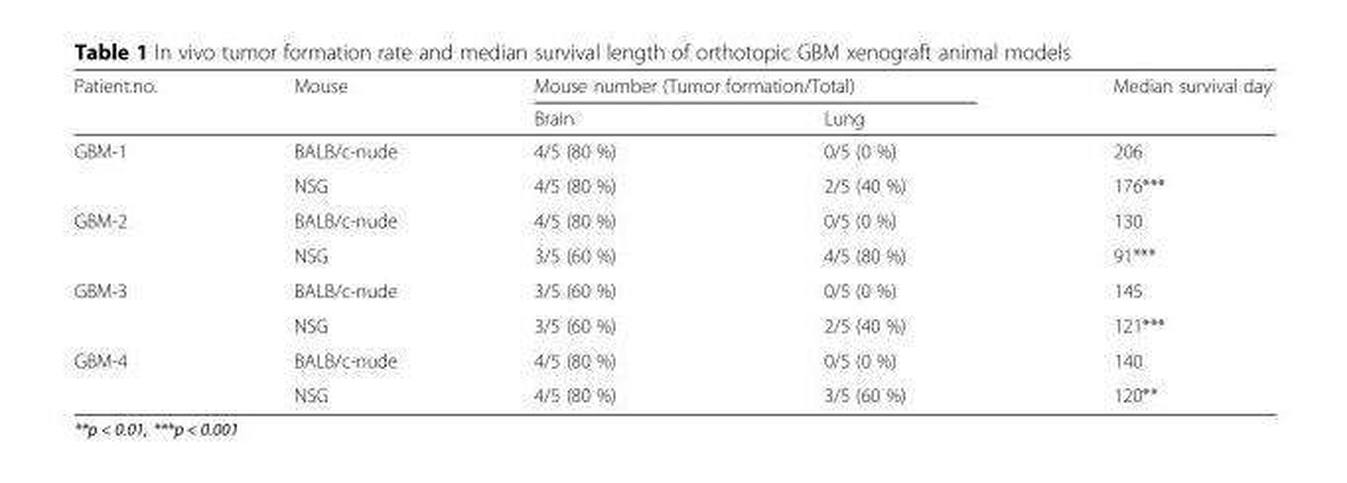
<table><thead><tr><td rowspan="2">Patient.no.</td><td rowspan="2">Mouse</td><td colspan="2">Mouse number (Tumor formation/Total)</td><td rowspan="2">Median survival day</td></tr><tr><td>Brain</td><td>Lung</td></tr></thead><tbody><tr><td rowspan="2">GBM-1</td><td>BALB/c-nude</td><td>4/5 (80 %)</td><td>0/5 (0 %)</td><td>206</td></tr><tr><td>NSG</td><td>4/5 (80 %)</td><td>2/5 (40 %)</td><td>176***</td></tr><tr><td rowspan="2">GBM-2</td><td>BALB/c-nude</td><td>4/5 (80 %)</td><td>0/5 (0 %)</td><td>130</td></tr><tr><td>NSG</td><td>3/5 (60 %)</td><td>4/5 (80 %)</td><td>91***</td></tr><tr><td rowspan="2">GBM-3</td><td>BALB/c-nude</td><td>3/5 (60 %)</td><td>0/5 (0 %)</td><td>145</td></tr><tr><td>NSG</td><td>3/5 (60 %)</td><td>2/5 (40 %)</td><td>121***</td></tr><tr><td rowspan="2">GBM-4</td><td>BALB/c-nude</td><td>4/5 (80 %)</td><td>0/5 (0 %)</td><td>140</td></tr><tr><td>NSG</td><td>4/5 (80 %)</td><td>3/5 (60 %)</td><td>120**</td></tr></tbody></table>